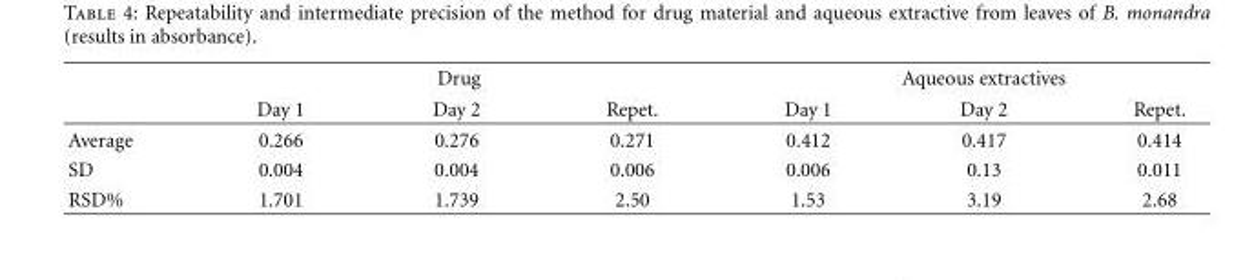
<table><thead><tr><td rowspan="2"></td><td colspan="3">Drug</td><td colspan="3">Aqueous extractives</td></tr><tr><td>Day 1</td><td>Day 2</td><td>Repet.</td><td>Day 1</td><td>Day 2</td><td>Repet.</td></tr></thead><tbody><tr><td>Average</td><td>0.266</td><td>0.276</td><td>0.271</td><td>0.412</td><td>0.417</td><td>0.414</td></tr><tr><td>SD</td><td>0.004</td><td>0.004</td><td>0.006</td><td>0.006</td><td>0.13</td><td>0.011</td></tr><tr><td>RSD%</td><td>1.701</td><td>1.739</td><td>2.50</td><td>1.53</td><td>3.19</td><td>2.68</td></tr></tbody></table>